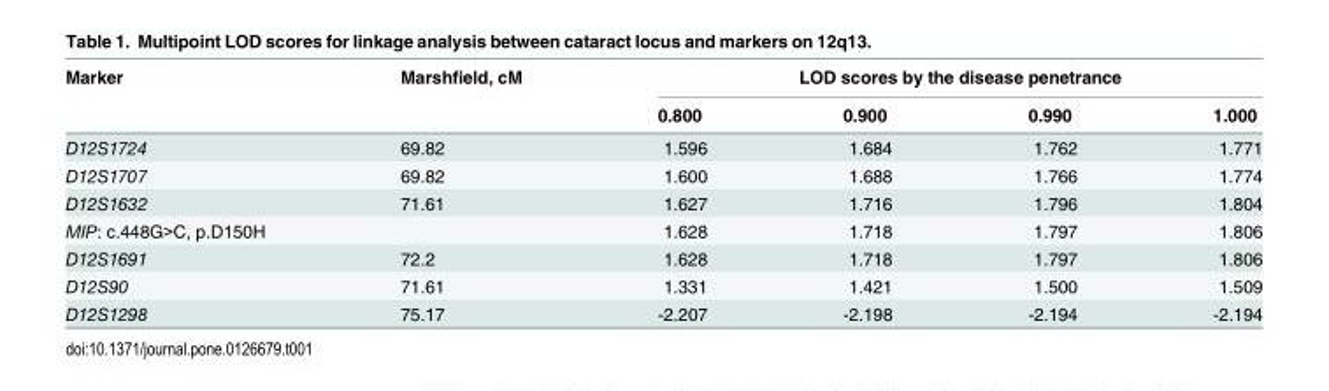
<table><thead><tr><td rowspan="2">Marker</td><td rowspan="2">Marshfield, cM</td><td colspan="4">LOD scores by the disease penetrance</td></tr><tr><td>0.800</td><td>0.900</td><td>0.990</td><td>1.000</td></tr></thead><tbody><tr><td>D12S1724</td><td>69.82</td><td>1.596</td><td>1.684</td><td>1.762</td><td>1.771</td></tr><tr><td>D12S1707</td><td>69.82</td><td>1.600</td><td>1.688</td><td>1.766</td><td>1.774</td></tr><tr><td>D12S1632</td><td>71.61</td><td>1.627</td><td>1.716</td><td>1.796</td><td>1.804</td></tr><tr><td>MIP: c.448G&gt;C, p.D150H</td><td></td><td>1.628</td><td>1.718</td><td>1.797</td><td>1.806</td></tr><tr><td>D12S1691</td><td>72.2</td><td>1.628</td><td>1.718</td><td>1.797</td><td>1.806</td></tr><tr><td>D12S90</td><td>71.61</td><td>1.331</td><td>1.421</td><td>1.500</td><td>1.509</td></tr><tr><td>D12S1298</td><td>75.17</td><td>-2.207</td><td>-2.198</td><td>-2.194</td><td>-2.194</td></tr></tbody></table>